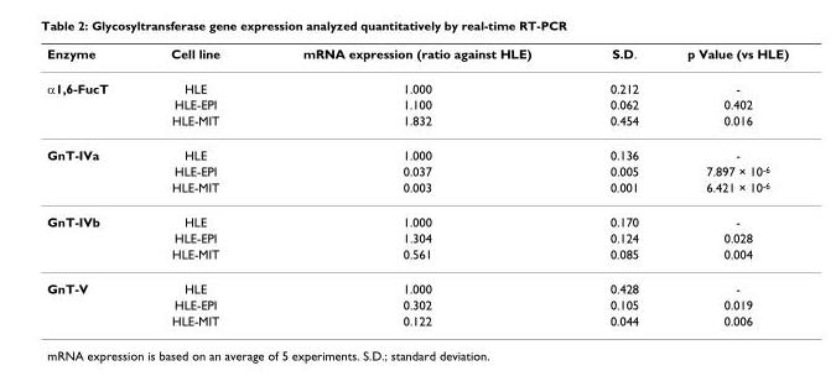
<table><thead><tr><td>Enzyme</td><td>Cell line</td><td>mRNA expression (ratio against HLE)</td><td>S.D.</td><td>p Value (vs HLE)</td></tr></thead><tbody><tr><td rowspan="3">α1,6-FucT</td><td>HLE</td><td>1.000</td><td>0.212</td><td>-</td></tr><tr><td>HLE-EPI</td><td>1.100</td><td>0.062</td><td>0.402</td></tr><tr><td>HLE-MIT</td><td>1.832</td><td>0.454</td><td>0.016</td></tr><tr><td rowspan="3">GnT-IVa</td><td>HLE</td><td>1.000</td><td>0.136</td><td>-</td></tr><tr><td>HLE-EPI</td><td>0.037</td><td>0.005</td><td>7.897 × 10<sup>-6</sup></td></tr><tr><td>HLE-MIT</td><td>0.003</td><td>0.001</td><td>6.421 × 10<sup>-6</sup></td></tr><tr><td rowspan="3">GnT-IVb</td><td>HLE</td><td>1.000</td><td>0.170</td><td>-</td></tr><tr><td>HLE-EPI</td><td>1.304</td><td>0.124</td><td>0.028</td></tr><tr><td>HLE-MIT</td><td>0.561</td><td>0.085</td><td>0.004</td></tr><tr><td rowspan="3">GnT-V</td><td>HLE</td><td>1.000</td><td>0.428</td><td>-</td></tr><tr><td>HLE-EPI</td><td>0.302</td><td>0.105</td><td>0.019</td></tr><tr><td>HLE-MIT</td><td>0.122</td><td>0.044</td><td>0.006</td></tr></tbody></table>